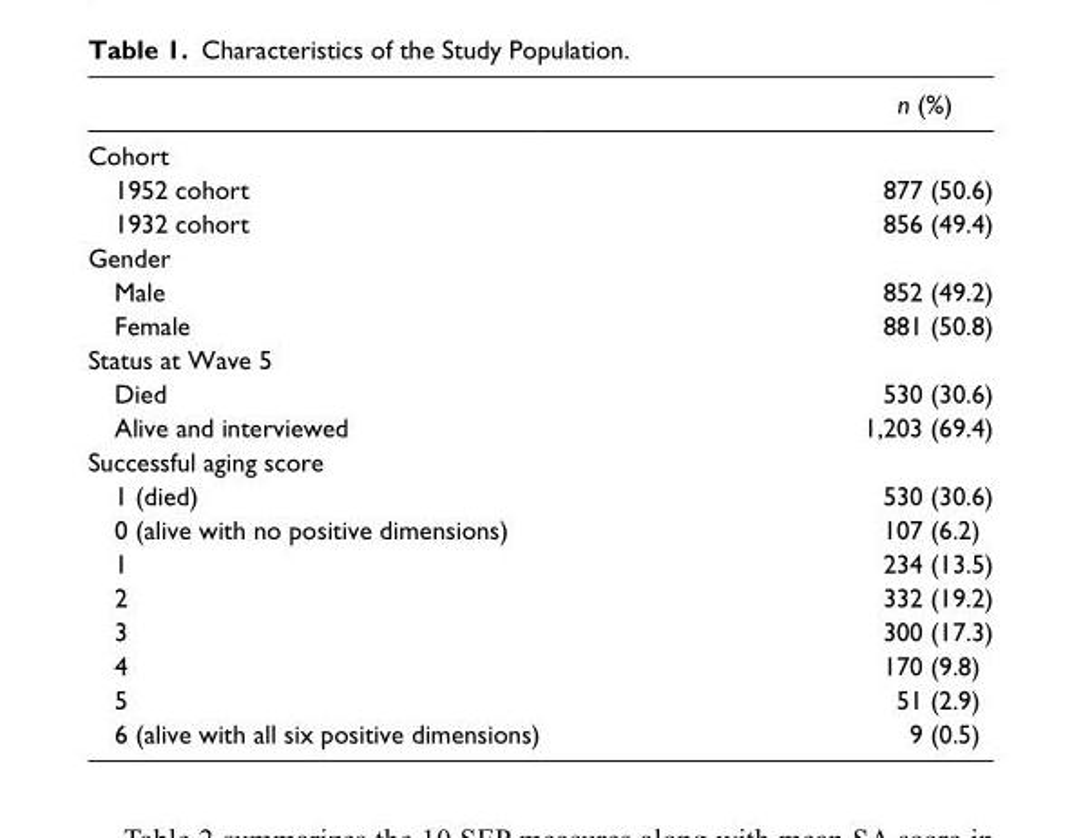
<table><thead><tr><td></td><td>n (%)</td></tr></thead><tbody><tr><td colspan="2">Cohort</td></tr><tr><td>1952 cohort</td><td>877 (50.6)</td></tr><tr><td>1932 cohort</td><td>856 (49.4)</td></tr><tr><td colspan="2">Gender</td></tr><tr><td>Male</td><td>852 (49.2)</td></tr><tr><td>Female</td><td>881 (50.8)</td></tr><tr><td colspan="2">Status at Wave 5</td></tr><tr><td>Died</td><td>530 (30.6)</td></tr><tr><td>Alive and interviewed</td><td>1,203 (69.4)</td></tr><tr><td colspan="2">Successful aging score</td></tr><tr><td>1 (died)</td><td>530 (30.6)</td></tr><tr><td>0 (alive with no positive dimensions)</td><td>107 (6.2)</td></tr><tr><td>1</td><td>234 (13.5)</td></tr><tr><td>2</td><td>332 (19.2)</td></tr><tr><td>3</td><td>300 (17.3)</td></tr><tr><td>4</td><td>170 (9.8)</td></tr><tr><td>5</td><td>51 (2.9)</td></tr><tr><td>6 (alive with all six positive dimensions)</td><td>9 (0.5)</td></tr></tbody></table>